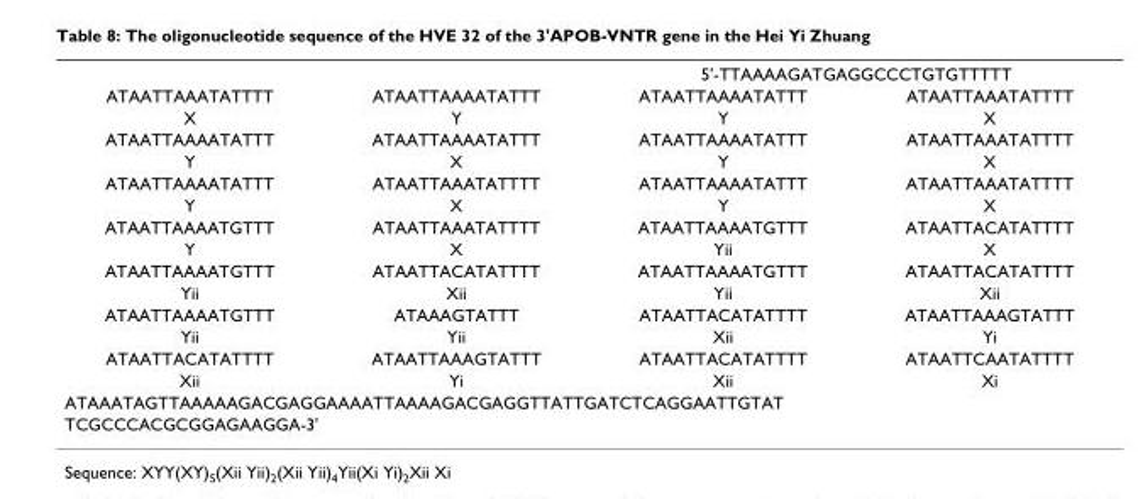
<table><thead><tr><td rowspan="2">ATAATTAAATATTTT</td><td rowspan="2">ATAATTAAAATATTT</td><td colspan="2">5&#x27;-TTAAAAGATGAGGCCCTGTGTTTTT</td></tr><tr><td>ATAATTAAAATATTT</td><td>ATAATTAAATATTTT</td></tr></thead><tbody><tr><td>X</td><td>Y</td><td>Y</td><td>X</td></tr><tr><td>ATAATTAAAATATTT</td><td>ATAATTAAAATATTT</td><td>ATAATTAAAATATTT</td><td>ATAATTAAATATTTT</td></tr><tr><td>Y</td><td>X</td><td>Y</td><td>X</td></tr><tr><td>ATAATTAAAATATTT</td><td>ATAATTAAATATTTT</td><td>ATAATTAAAATATTT</td><td>ATAATTAAATATTTT</td></tr><tr><td>Y</td><td>X</td><td>Y</td><td>X</td></tr><tr><td>ATAATTAAAATGTTT</td><td>ATAATTAAATATTTT</td><td>ATAATTAAAATGTTT</td><td>ATAATTACATATTTT</td></tr><tr><td>Y</td><td>X</td><td>Yii</td><td>X</td></tr><tr><td>ATAATTAAAATGTTT</td><td>ATAATTACATATTTT</td><td>ATAATTAAAATGTTT</td><td>ATAATTACATATTTT</td></tr><tr><td>Yii</td><td>Xii</td><td>Yii</td><td>Xii</td></tr><tr><td>ATAATTAAAATGTTT</td><td>ATAAAGTATTT</td><td>ATAATTACATATTTT</td><td>ATAATTAAAGTATTT</td></tr><tr><td>Yii</td><td>Yii</td><td>Xii</td><td>Yi</td></tr><tr><td>ATAATTACATATTTT</td><td>ATAATTAAAGTATTT</td><td>ATAATTACATATTTT</td><td>ATAATTCAATATTTT</td></tr><tr><td>Xii</td><td>Yi</td><td>Xii</td><td>Xi</td></tr><tr><td colspan="4">ATAAATAGTTAAAAAGACGAGGAAAATTAAAAGACGAGGTTATTGATCTCAGGAATTGTAT</td></tr><tr><td colspan="2">TCGCCCACGCGGAGAAGGA-3&#x27;</td><td></td><td></td></tr></tbody></table>